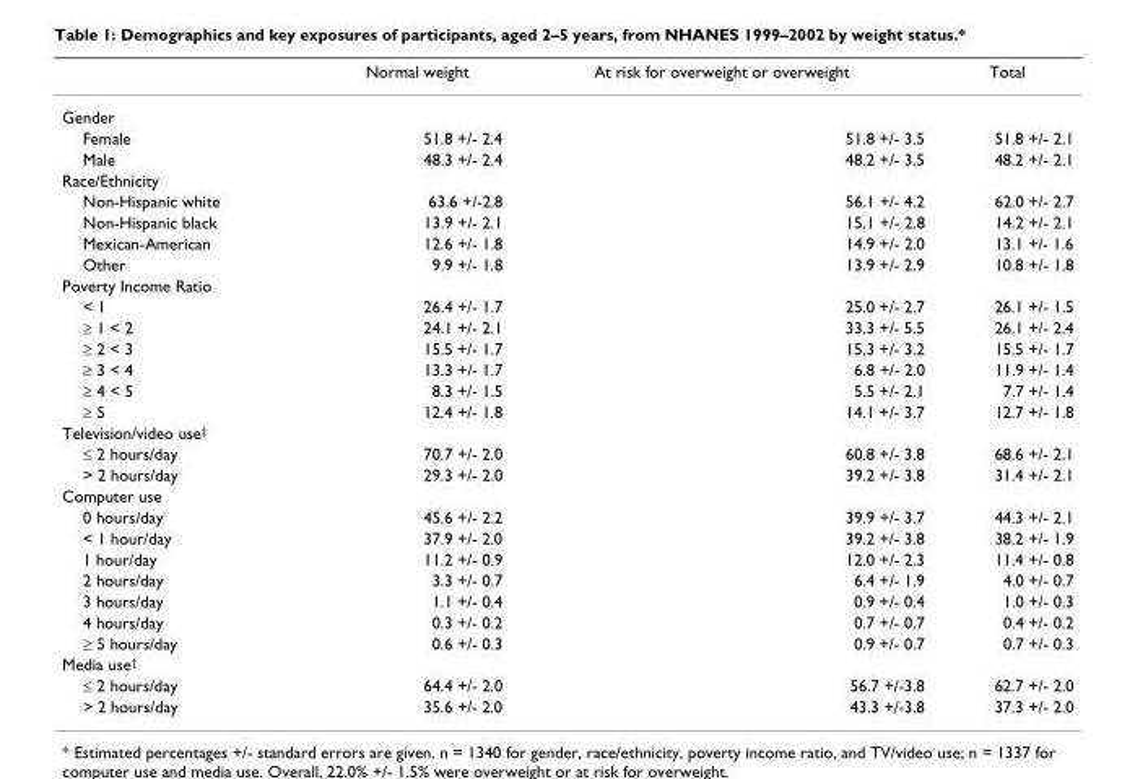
<table><thead><tr><td></td><td>Normal weight</td><td>At risk for overweight or overweight</td><td>Total</td></tr></thead><tbody><tr><td colspan="4">Gender</td></tr><tr><td>Female</td><td>51.8 +/- 2.4</td><td>51.8 +/- 3.5</td><td>51.8 +/- 2.1</td></tr><tr><td>Male</td><td>48.3 +/- 2.4</td><td>48.2 +/- 3.5</td><td>48.2 +/- 2.1</td></tr><tr><td colspan="4">Race/Ethnicity</td></tr><tr><td>Non-Hispanic white</td><td>63.6 +/-2.8</td><td>56.1 +/- 4.2</td><td>62.0 +/- 2.7</td></tr><tr><td>Non-Hispanic black</td><td>13.9 +/- 2.1</td><td>15.1 +/- 2.8</td><td>14.2 +/- 2.1</td></tr><tr><td>Mexican-American</td><td>12.6 +/- 1.8</td><td>14.9 +/- 2.0</td><td>13.1 +/- 1.6</td></tr><tr><td>Other</td><td>9.9 +/- 1.8</td><td>13.9 +/- 2.9</td><td>10.8 +/- 1.8</td></tr><tr><td colspan="4">Poverty Income Ratio</td></tr><tr><td>&lt; 1</td><td>26.4 +/- 1.7</td><td>25.0 +/- 2.7</td><td>26.1 +/- 1.5</td></tr><tr><td>≥ 1 &lt; 2</td><td>24.1 +/- 2.1</td><td>33.3 +/- 5.5</td><td>26.1 +/- 2.4</td></tr><tr><td>≥ 2 &lt; 3</td><td>15.5 +/- 1.7</td><td>15.3 +/- 3.2</td><td>15.5 +/- 1.7</td></tr><tr><td>≥ 3 &lt; 4</td><td>13.3 +/- 1.7</td><td>6.8 +/- 2.0</td><td>11.9 +/- 1.4</td></tr><tr><td>≥ 4 &lt; 5</td><td>8.3 +/- 1.5</td><td>5.5 +/- 2.1</td><td>7.7 +/- 1.4</td></tr><tr><td>≥ 5</td><td>12.4 +/- 1.8</td><td>14.1 +/- 3.7</td><td>12.7 +/- 1.8</td></tr><tr><td colspan="4">Television/video use<sup>‡</sup></td></tr><tr><td>≤ 2 hours/day</td><td>70.7 +/- 2.0</td><td>60.8 +/- 3.8</td><td>68.6 +/- 2.1</td></tr><tr><td>&gt; 2 hours/day</td><td>29.3 +/- 2.0</td><td>39.2 +/- 3.8</td><td>31.4 +/- 2.1</td></tr><tr><td colspan="4">Computer use</td></tr><tr><td>0 hours/day</td><td>45.6 +/- 2.2</td><td>39.9 +/- 3.7</td><td>44.3 +/- 2.1</td></tr><tr><td>&lt; 1 hour/day</td><td>37.9 +/- 2.0</td><td>39.2 +/- 3.8</td><td>38.2 +/- 1.9</td></tr><tr><td>1 hour/day</td><td>11.2 +/- 0.9</td><td>12.0 +/- 2.3</td><td>11.4 +/- 0.8</td></tr><tr><td>2 hours/day</td><td>3.3 +/- 0.7</td><td>6.4 +/- 1.9</td><td>4.0 +/- 0.7</td></tr><tr><td>3 hours/day</td><td>1.1 +/- 0.4</td><td>0.9 +/- 0.4</td><td>1.0 +/- 0.3</td></tr><tr><td>4 hours/day</td><td>0.3 +/- 0.2</td><td>0.7 +/- 0.7</td><td>0.4 +/- 0.2</td></tr><tr><td>≥ 5 hours/day</td><td>0.6 +/- 0.3</td><td>0.9 +/- 0.7</td><td>0.7 +/- 0.3</td></tr><tr><td colspan="4">Media use<sup>†</sup></td></tr><tr><td>≤ 2 hours/day</td><td>64.4 +/- 2.0</td><td>56.7 +/-3.8</td><td>62.7 +/- 2.0</td></tr><tr><td>&gt; 2 hours/day</td><td>35.6 +/- 2.0</td><td>43.3 +/-3.8</td><td>37.3 +/- 2.0</td></tr></tbody></table>